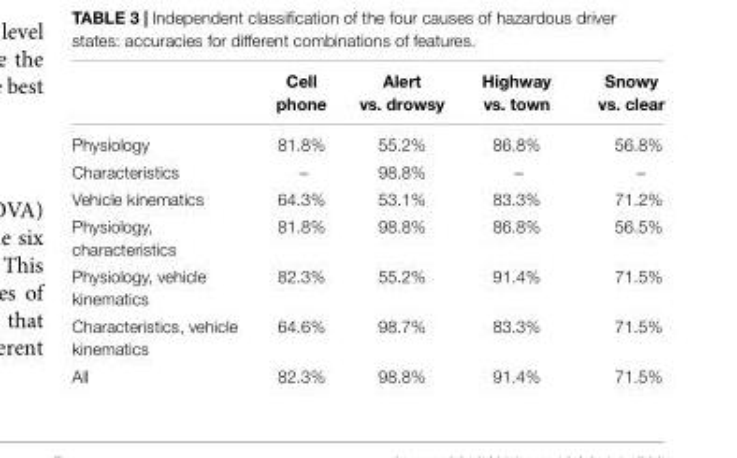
<table><thead><tr><td></td><td>Cell phone</td><td>Alert vs. drowsy</td><td>Highway vs. town</td><td>Snowy vs. clear</td></tr></thead><tbody><tr><td>Physiology</td><td>81.8%</td><td>55.2%</td><td>86.8%</td><td>56.8%</td></tr><tr><td>Characteristics</td><td>–</td><td>98.8%</td><td>–</td><td>–</td></tr><tr><td>Vehicle kinematics</td><td>64.3%</td><td>53.1%</td><td>83.3%</td><td>71.2%</td></tr><tr><td>Physiology, characteristics</td><td>81.8%</td><td>98.8%</td><td>86.8%</td><td>56.5%</td></tr><tr><td>Physiology, vehicle kinematics</td><td>82.3%</td><td>55.2%</td><td>91.4%</td><td>71.5%</td></tr><tr><td>Characteristics, vehicle kinematics</td><td>64.6%</td><td>98.7%</td><td>83.3%</td><td>71.5%</td></tr><tr><td>All</td><td>82.3%</td><td>98.8%</td><td>91.4%</td><td>71.5%</td></tr></tbody></table>